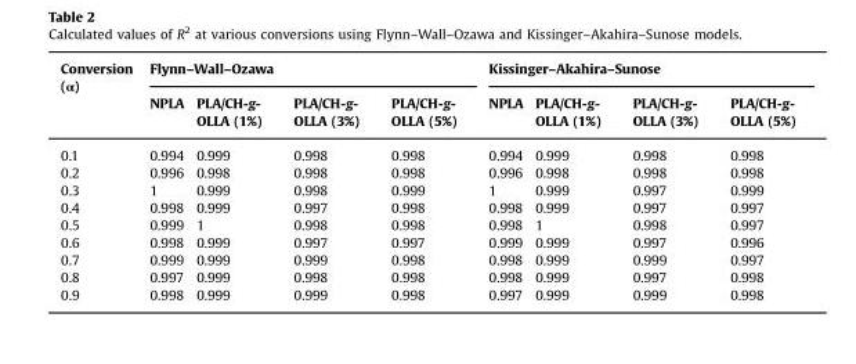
<table><thead><tr><td rowspan="2">Conversion (α)</td><td colspan="4">Flynn–Wall–Ozawa</td><td colspan="4">Kissinger–Akahira–Sunose</td></tr><tr><td>NPLA</td><td>PLA/CH-g- OLLA (1%)</td><td>PLA/CH-g- OLLA (3%)</td><td>PLA/CH-g- OLLA (5%)</td><td>NPLA</td><td>PLA/CH-g- OLLA (1%)</td><td>PLA/CH-g- OLLA (3%)</td><td>PLA/CH-g- OLLA (5%)</td></tr></thead><tbody><tr><td>0.1</td><td>0.994</td><td>0.999</td><td>0.998</td><td>0.998</td><td>0.994</td><td>0.999</td><td>0.998</td><td>0.998</td></tr><tr><td>0.2</td><td>0.996</td><td>0.998</td><td>0.998</td><td>0.998</td><td>0.996</td><td>0.998</td><td>0.998</td><td>0.998</td></tr><tr><td>0.3</td><td>1</td><td>0.999</td><td>0.998</td><td>0.999</td><td>1</td><td>0.999</td><td>0.997</td><td>0.999</td></tr><tr><td>0.4</td><td>0.998</td><td>0.999</td><td>0.997</td><td>0.998</td><td>0.998</td><td>0.999</td><td>0.997</td><td>0.997</td></tr><tr><td>0.5</td><td>0.999</td><td>1</td><td>0.998</td><td>0.998</td><td>0.998</td><td>1</td><td>0.998</td><td>0.997</td></tr><tr><td>0.6</td><td>0.998</td><td>0.999</td><td>0.997</td><td>0.997</td><td>0.999</td><td>0.999</td><td>0.997</td><td>0.996</td></tr><tr><td>0.7</td><td>0.999</td><td>0.999</td><td>0.999</td><td>0.998</td><td>0.998</td><td>0.999</td><td>0.999</td><td>0.997</td></tr><tr><td>0.8</td><td>0.997</td><td>0.999</td><td>0.998</td><td>0.998</td><td>0.998</td><td>0.999</td><td>0.997</td><td>0.998</td></tr><tr><td>0.9</td><td>0.998</td><td>0.999</td><td>0.999</td><td>0.998</td><td>0.997</td><td>0.999</td><td>0.999</td><td>0.998</td></tr></tbody></table>